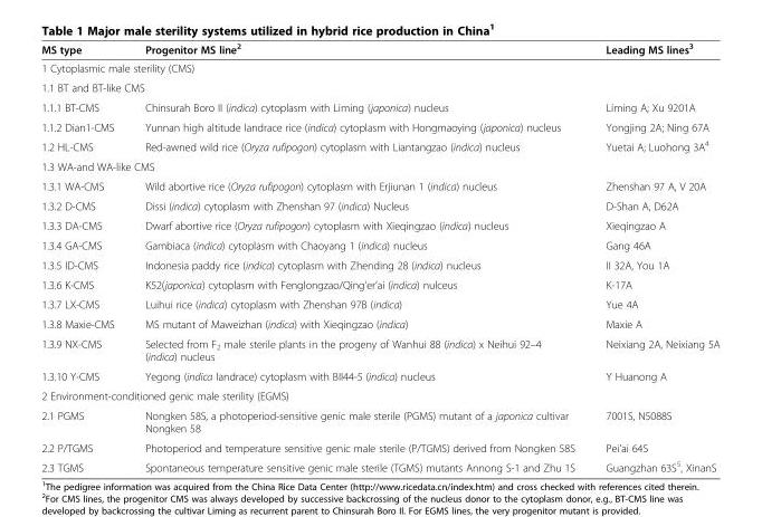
<table><thead><tr><td>MS type</td><td>Progenitor MS line<sup>2</sup></td><td>Leading MS lines<sup>3</sup></td></tr></thead><tbody><tr><td colspan="3">1 Cytoplasmic male sterility (CMS)</td></tr><tr><td colspan="3">1.1 BT and BT-like CMS</td></tr><tr><td>1.1.1 BT-CMS</td><td>Chinsurah Boro II (indica) cytoplasm with Liming (japonica) nucleus</td><td>Liming A; Xu 9201A</td></tr><tr><td>1.1.2 Dian1-CMS</td><td>Yunnan high altitude landrace rice (indica) cytoplasm with Hongmaoying (japonica) nucleus</td><td>Yongjing 2A; Ning 67A</td></tr><tr><td>1.2 HL-CMS</td><td>Red-awned wild rice (Oryza rufipogon) cytoplasm with Liantangzao (indica) nucleus</td><td>Yuetai A; Luohong 3A<sup>4</sup></td></tr><tr><td colspan="3">1.3 WA-and WA-like CMS</td></tr><tr><td>1.3.1 WA-CMS</td><td>Wild abortive rice (Oryza rufipogon) cytoplasm with Erjiunan 1 (indica) nucleus</td><td>Zhenshan 97 A, V 20A</td></tr><tr><td>1.3.2 D-CMS</td><td>Dissi (indica) cytoplasm with Zhenshan 97 (indica) Nucleus</td><td>D-Shan A, D62A</td></tr><tr><td>1.3.3 DA-CMS</td><td>Dwarf abortive rice (Oryza rufipogon) cytoplasm with Xieqingzao (indica) nucleus</td><td>Xieqingzao A</td></tr><tr><td>1.3.4 GA-CMS</td><td>Gambiaca (indica) cytoplasm with Chaoyang 1 (indica) nucleus</td><td>Gang 46A</td></tr><tr><td>1.3.5 ID-CMS</td><td>Indonesia paddy rice (indica) cytoplasm with Zhending 28 (indica) nucleus</td><td>II 32A, You 1A</td></tr><tr><td>1.3.6 K-CMS</td><td>K52(japonica) cytoplasm with Fenglongzao/Qing’er’ai (indica) nulceus</td><td>K-17A</td></tr><tr><td>1.3.7 LX-CMS</td><td>Luihui rice (indica) cytoplasm with Zhenshan 97B (indica)</td><td>Yue 4A</td></tr><tr><td>1.3.8 Maxie-CMS</td><td>MS mutant of Maweizhan (indica) with Xieqingzao (indica)</td><td>Maxie A</td></tr><tr><td>1.3.9 NX-CMS</td><td>Selected from F<sub>2</sub> male sterile plants in the progeny of Wanhui 88 (indica) x Neihui 92–4 (indica) nucleus</td><td>Neixiang 2A, Neixiang 5A</td></tr><tr><td>1.3.10 Y-CMS</td><td>Yegong (indica landrace) cytoplasm with BII44-5 (indica) nucleus</td><td>Y Huanong A</td></tr><tr><td colspan="3">2 Environment-conditioned genic male sterility (EGMS)</td></tr><tr><td>2.1 PGMS</td><td>Nongken 58S, a photoperiod-sensitive genic male sterile (PGMS) mutant of a japonica cultivar Nongken 58</td><td>7001S, N5088S</td></tr><tr><td>2.2 P/TGMS</td><td>Photoperiod and temperature sensitive genic male sterile (P/TGMS) derived from Nongken 58S</td><td>Pei’ai 64S</td></tr><tr><td>2.3 TGMS</td><td>Spontaneous temperature sensitive genic male sterile (TGMS) mutants Annong S-1 and Zhu 1S</td><td>Guangzhan 63S<sup>5</sup>, XinanS</td></tr></tbody></table>